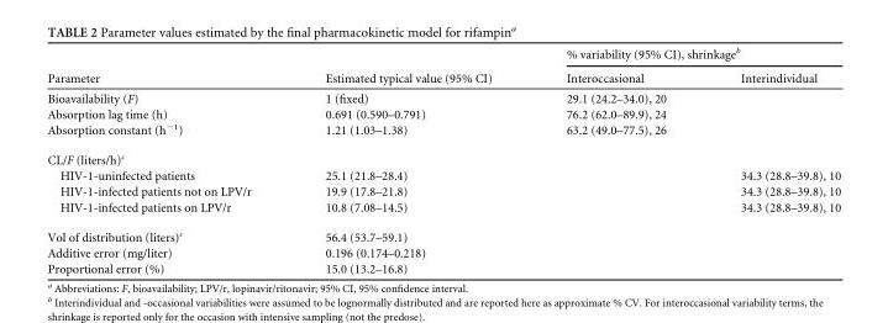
<table><thead><tr><td rowspan="2">Parameter</td><td rowspan="2">Estimated typical value (95% CI)</td><td colspan="2">% variability (95% CI), shrinkage<sup>b</sup></td></tr><tr><td>Interoccasional</td><td>Interindividual</td></tr></thead><tbody><tr><td>Bioavailability (F)</td><td>1 (fixed)</td><td>29.1 (24.2–34.0), 20</td><td></td></tr><tr><td>Absorption lag time (h)</td><td>0.691 (0.590–0.791)</td><td>76.2 (62.0–89.9), 24</td><td></td></tr><tr><td>Absorption constant (h<sup>−1</sup>)</td><td>1.21 (1.03–1.38)</td><td>63.2 (49.0–77.5), 26</td><td></td></tr><tr><td colspan="4">CL/F (liters/h)<sup>c</sup></td></tr><tr><td>HIV-1-uninfected patients</td><td>25.1 (21.8–28.4)</td><td></td><td>34.3 (28.8–39.8), 10</td></tr><tr><td>HIV-1-infected patients not on LPV/r</td><td>19.9 (17.8–21.8)</td><td></td><td>34.3 (28.8–39.8), 10</td></tr><tr><td>HIV-1-infected patients on LPV/r</td><td>10.8 (7.08–14.5)</td><td></td><td>34.3 (28.8–39.8), 10</td></tr><tr><td>Vol of distribution (liters)<sup>c</sup></td><td>56.4 (53.7–59.1)</td><td></td><td></td></tr><tr><td>Additive error (mg/liter)</td><td>0.196 (0.174–0.218)</td><td></td><td></td></tr><tr><td>Proportional error (%)</td><td>15.0 (13.2–16.8)</td><td></td><td></td></tr></tbody></table>